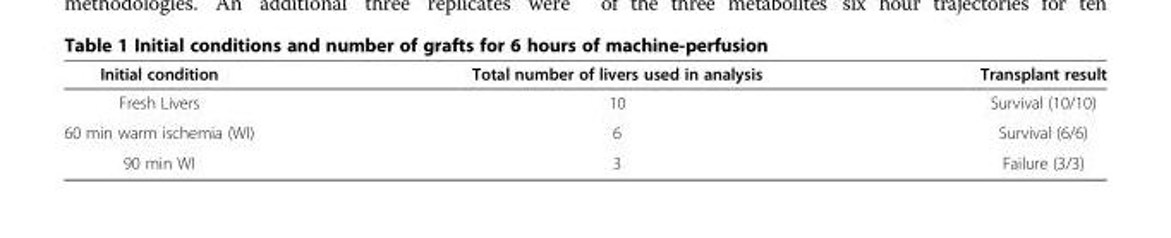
<table><thead><tr><td>Initial condition</td><td>Total number of livers used in analysis</td><td>Transplant result</td></tr></thead><tbody><tr><td>Fresh Livers</td><td>10</td><td>Survival (10/10)</td></tr><tr><td>60 min warm ischemia (WI)</td><td>6</td><td>Survival (6/6)</td></tr><tr><td>90 min WI</td><td>3</td><td>Failure (3/3)</td></tr></tbody></table>